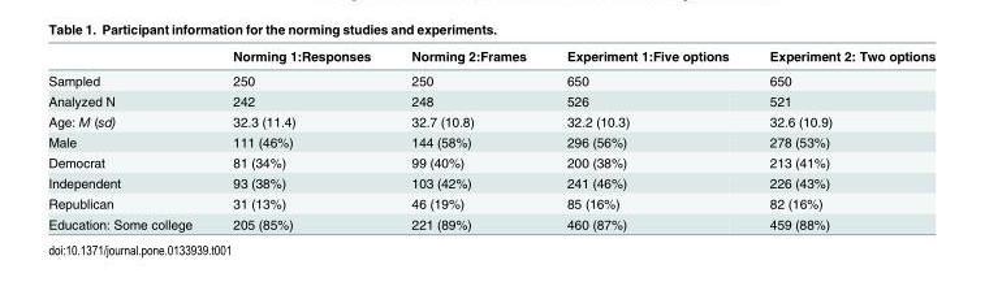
<table><thead><tr><td></td><td>Norming 1:Responses</td><td>Norming 2:Frames</td><td>Experiment 1:Five options</td><td>Experiment 2: Two options</td></tr></thead><tbody><tr><td>Sampled</td><td>250</td><td>250</td><td>650</td><td>650</td></tr><tr><td>Analyzed N</td><td>242</td><td>248</td><td>526</td><td>521</td></tr><tr><td>Age: M (sd)</td><td>32.3 (11.4)</td><td>32.7 (10.8)</td><td>32.2 (10.3)</td><td>32.6 (10.9)</td></tr><tr><td>Male</td><td>111 (46%)</td><td>144 (58%)</td><td>296 (56%)</td><td>278 (53%)</td></tr><tr><td>Democrat</td><td>81 (34%)</td><td>99 (40%)</td><td>200 (38%)</td><td>213 (41%)</td></tr><tr><td>Independent</td><td>93 (38%)</td><td>103 (42%)</td><td>241 (46%)</td><td>226 (43%)</td></tr><tr><td>Republican</td><td>31 (13%)</td><td>46 (19%)</td><td>85 (16%)</td><td>82 (16%)</td></tr><tr><td>Education: Some college</td><td>205 (85%)</td><td>221 (89%)</td><td>460 (87%)</td><td>459 (88%)</td></tr></tbody></table>